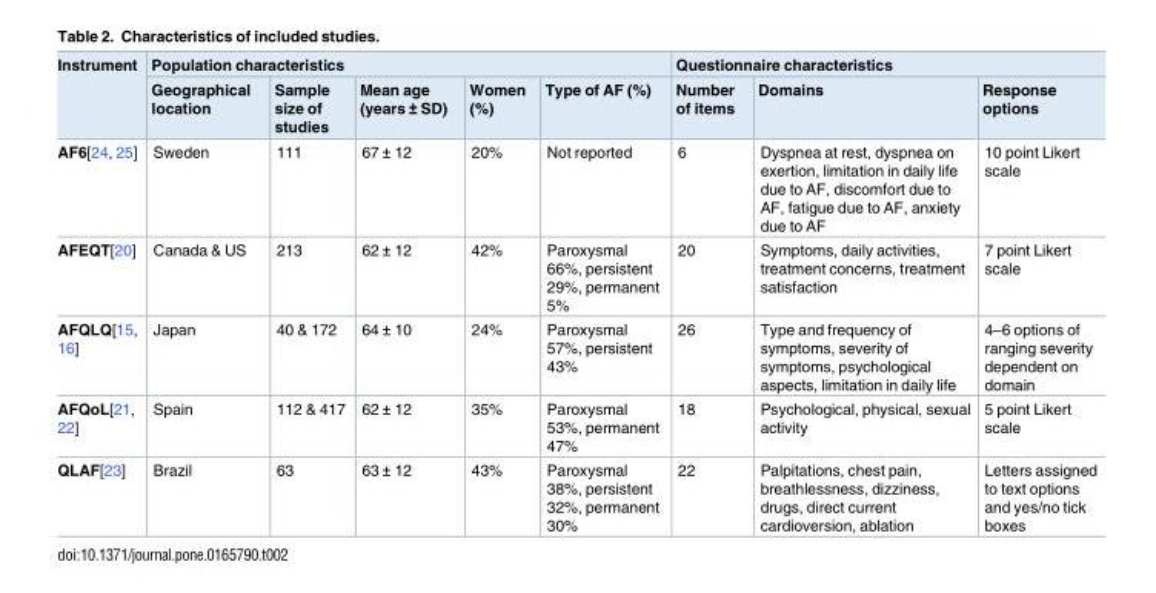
<table><thead><tr><td rowspan="2">Instrument</td><td colspan="5">Population characteristics</td><td colspan="3">Questionnaire characteristics</td></tr><tr><td>Geographical location</td><td>Sample size of studies</td><td>Mean age (years ± SD)</td><td>Women (%)</td><td>Type of AF (%)</td><td>Number of items</td><td>Domains</td><td>Response options</td></tr></thead><tbody><tr><td>AF6[24, 25]</td><td>Sweden</td><td>111</td><td>67 ± 12</td><td>20%</td><td>Not reported</td><td>6</td><td>Dyspnea at rest, dyspnea on exertion, limitation in daily life due to AF, discomfort due to AF, fatigue due to AF, anxiety due to AF</td><td>10 point Likert scale</td></tr><tr><td>AFEQT[20]</td><td>Canada &amp; US</td><td>213</td><td>62 ± 12</td><td>42%</td><td>Paroxysmal 66%, persistent 29%, permanent 5%</td><td>20</td><td>Symptoms, daily activities, treatment concerns, treatment satisfaction</td><td>7 point Likert scale</td></tr><tr><td>AFQLQ[15, 16]</td><td>Japan</td><td>40 &amp; 172</td><td>64 ± 10</td><td>24%</td><td>Paroxysmal 57%, persistent 43%</td><td>26</td><td>Type and frequency of symptoms, severity of symptoms, psychological aspects, limitation in daily life</td><td>4–6 options of ranging severity dependent on domain</td></tr><tr><td>AFQoL[21, 22]</td><td>Spain</td><td>112 &amp; 417</td><td>62 ± 12</td><td>35%</td><td>Paroxysmal 53%, permanent 47%</td><td>18</td><td>Psychological, physical, sexual activity</td><td>5 point Likert scale</td></tr><tr><td>QLAF[23]</td><td>Brazil</td><td>63</td><td>63 ± 12</td><td>43%</td><td>Paroxysmal 38%, persistent 32%, permanent 30%</td><td>22</td><td>Palpitations, chest pain, breathlessness, dizziness, drugs, direct current cardioversion, ablation</td><td>Letters assigned to text options and yes/no tick boxes</td></tr></tbody></table>